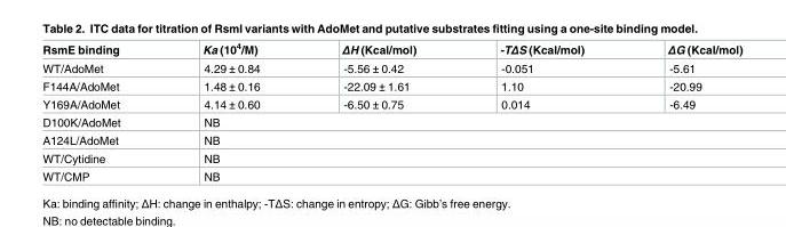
<table><thead><tr><td>RsmE binding</td><td>Ka (10<sup>4</sup>/M)</td><td>ΔH (Kcal/mol)</td><td>-TΔS (Kcal/mol)</td><td>ΔG (Kcal/mol)</td></tr></thead><tbody><tr><td>WT/AdoMet</td><td>4.29 ± 0.84</td><td>-5.56 ± 0.42</td><td>-0.051</td><td>-5.61</td></tr><tr><td>F144A/AdoMet</td><td>1.48 ± 0.16</td><td>-22.09 ± 1.61</td><td>1.10</td><td>-20.99</td></tr><tr><td>Y169A/AdoMet</td><td>4.14 ± 0.60</td><td>-6.50 ± 0.75</td><td>0.014</td><td>-6.49</td></tr><tr><td>D100K/AdoMet</td><td colspan="4">NB</td></tr><tr><td>A124L/AdoMet</td><td colspan="4">NB</td></tr><tr><td>WT/Cytidine</td><td colspan="4">NB</td></tr><tr><td>WT/CMP</td><td colspan="4">NB</td></tr></tbody></table>